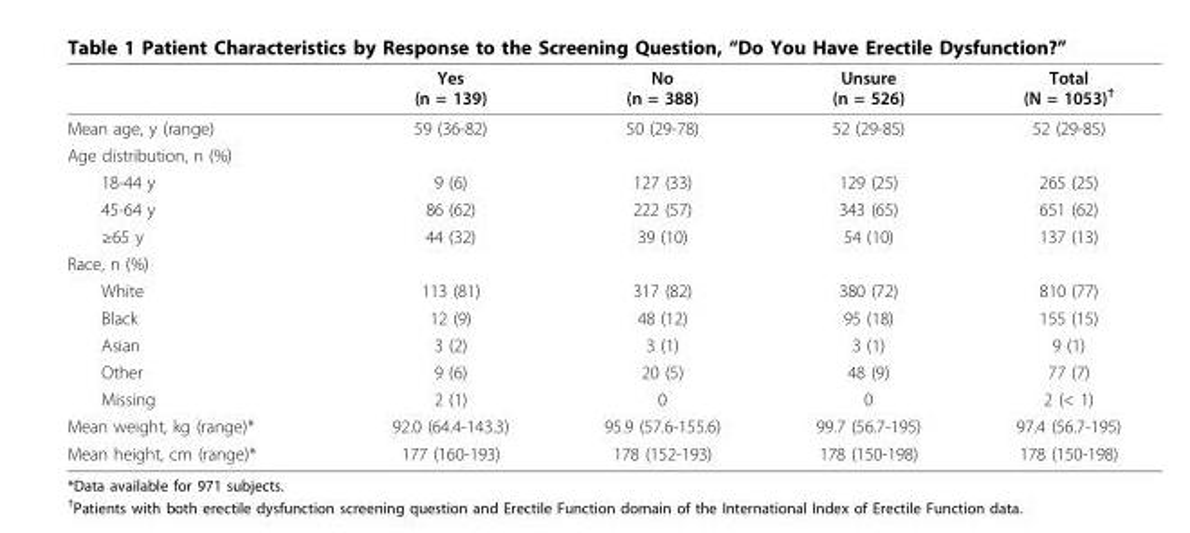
<table><thead><tr><td></td><td>Yes (n = 139)</td><td>No (n = 388)</td><td>Unsure (n = 526)</td><td>Total (N = 1053)<sup>†</sup></td></tr></thead><tbody><tr><td>Mean age, y (range)</td><td>59 (36-82)</td><td>50 (29-78)</td><td>52 (29-85)</td><td>52 (29-85)</td></tr><tr><td colspan="5">Age distribution, n (%)</td></tr><tr><td>18-44 y</td><td>9 (6)</td><td>127 (33)</td><td>129 (25)</td><td>265 (25)</td></tr><tr><td>45-64 y</td><td>86 (62)</td><td>222 (57)</td><td>343 (65)</td><td>651 (62)</td></tr><tr><td>≥65 y</td><td>44 (32)</td><td>39 (10)</td><td>54 (10)</td><td>137 (13)</td></tr><tr><td colspan="5">Race, n (%)</td></tr><tr><td>White</td><td>113 (81)</td><td>317 (82)</td><td>380 (72)</td><td>810 (77)</td></tr><tr><td>Black</td><td>12 (9)</td><td>48 (12)</td><td>95 (18)</td><td>155 (15)</td></tr><tr><td>Asian</td><td>3 (2)</td><td>3 (1)</td><td>3 (1)</td><td>9 (1)</td></tr><tr><td>Other</td><td>9 (6)</td><td>20 (5)</td><td>48 (9)</td><td>77 (7)</td></tr><tr><td>Missing</td><td>2 (1)</td><td>0</td><td>0</td><td>2 (&lt; 1)</td></tr><tr><td>Mean weight, kg (range)*</td><td>92.0 (64.4-143.3)</td><td>95.9 (57.6-155.6)</td><td>99.7 (56.7-195)</td><td>97.4 (56.7-195)</td></tr><tr><td>Mean height, cm (range)*</td><td>177 (160-193)</td><td>178 (152-193)</td><td>178 (150-198)</td><td>178 (150-198)</td></tr></tbody></table>